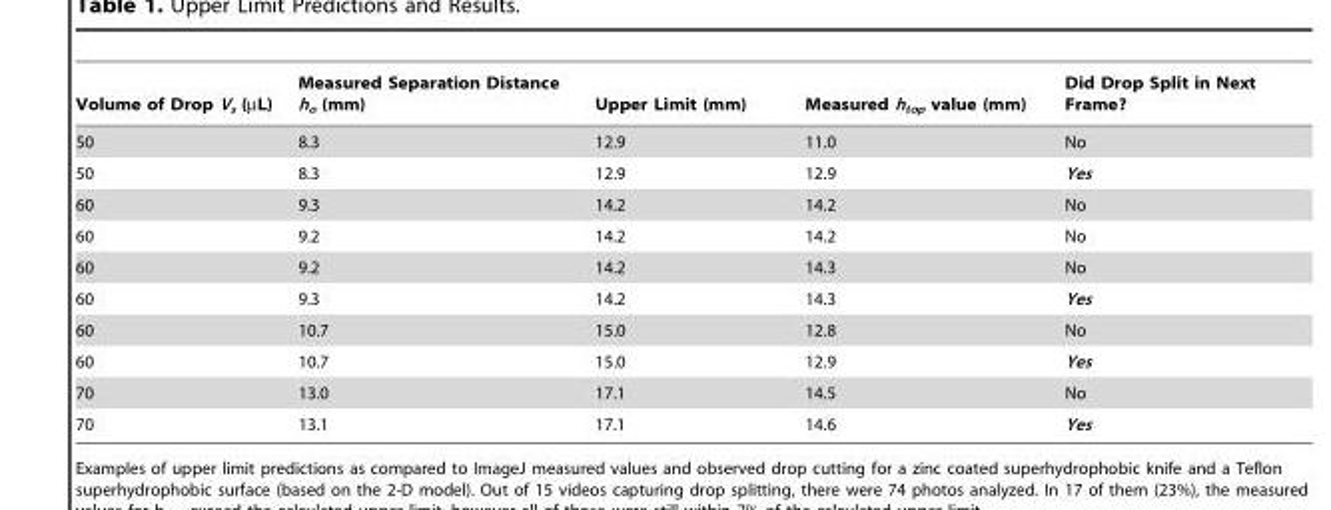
<table><thead><tr><td>Volume of Drop V<sub>s</sub> (µL)</td><td>Measured Separation Distance h<sub>o</sub> (mm)</td><td>Upper Limit (mm)</td><td>Measured h<sub>top</sub> value (mm)</td><td>Did Drop Split in Next Frame?</td></tr></thead><tbody><tr><td>50</td><td>8.3</td><td>12.9</td><td>11.0</td><td>No</td></tr><tr><td>50</td><td>8.3</td><td>12.9</td><td>12.9</td><td>Yes</td></tr><tr><td>60</td><td>9.3</td><td>14.2</td><td>14.2</td><td>No</td></tr><tr><td>60</td><td>9.2</td><td>14.2</td><td>14.2</td><td>No</td></tr><tr><td>60</td><td>9.2</td><td>14.2</td><td>14.3</td><td>No</td></tr><tr><td>60</td><td>9.3</td><td>14.2</td><td>14.3</td><td>Yes</td></tr><tr><td>60</td><td>10.7</td><td>15.0</td><td>12.8</td><td>No</td></tr><tr><td>60</td><td>10.7</td><td>15.0</td><td>12.9</td><td>Yes</td></tr><tr><td>70</td><td>13.0</td><td>17.1</td><td>14.5</td><td>No</td></tr><tr><td>70</td><td>13.1</td><td>17.1</td><td>14.6</td><td>Yes</td></tr></tbody></table>